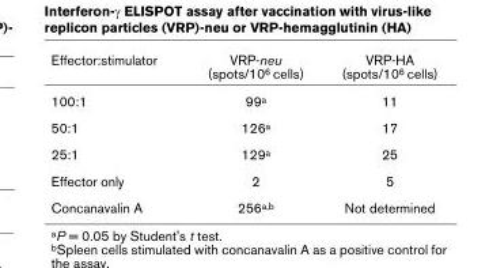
<table><thead><tr><td>Effector:stimulator</td><td>VRP-neu (spots/106 cells)</td><td>VRP-HA (spots/106 cells)</td></tr></thead><tbody><tr><td>100:1</td><td>99a</td><td>11</td></tr><tr><td>50:1</td><td>126a</td><td>17</td></tr><tr><td>25:1</td><td>129a</td><td>25</td></tr><tr><td>Effector only</td><td>2</td><td>5</td></tr><tr><td>Concanavalin A</td><td>256a,b</td><td>Not determined</td></tr></tbody></table>